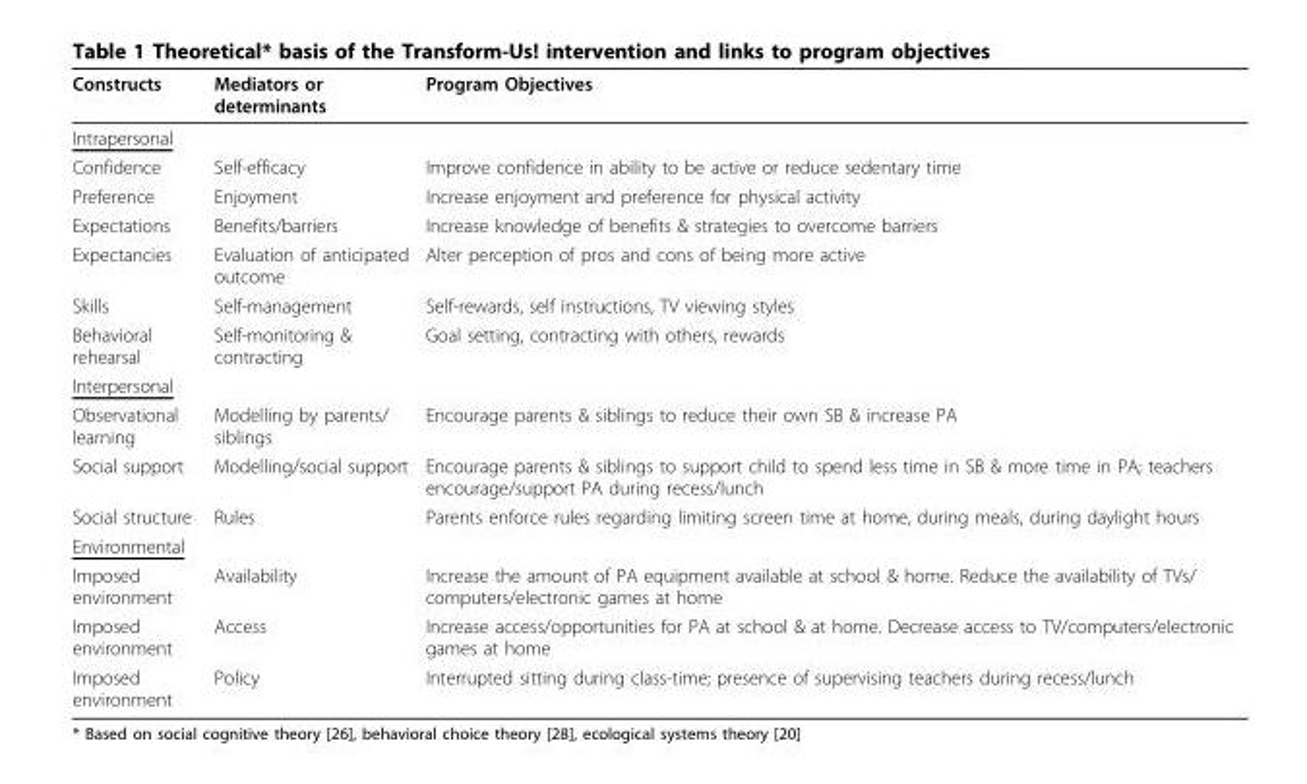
<table><thead><tr><td>Constructs</td><td>Mediators or determinants</td><td>Program Objectives</td></tr></thead><tbody><tr><td colspan="3">Intrapersonal</td></tr><tr><td>Confidence</td><td>Self-efficacy</td><td>Improve confidence in ability to be active or reduce sedentary time</td></tr><tr><td>Preference</td><td>Enjoyment</td><td>Increase enjoyment and preference for physical activity</td></tr><tr><td>Expectations</td><td>Benefits/barriers</td><td>Increase knowledge of benefits &amp; strategies to overcome barriers</td></tr><tr><td>Expectancies</td><td>Evaluation of anticipated outcome</td><td>Alter perception of pros and cons of being more active</td></tr><tr><td>Skills</td><td>Self-management</td><td>Self-rewards, self instructions, TV viewing styles</td></tr><tr><td>Behavioral rehearsal</td><td>Self-monitoring &amp; contracting</td><td>Goal setting, contracting with others, rewards</td></tr><tr><td colspan="3">Interpersonal</td></tr><tr><td>Observational learning</td><td>Modelling by parents/ siblings</td><td>Encourage parents &amp; siblings to reduce their own SB &amp; increase PA</td></tr><tr><td>Social support</td><td>Modelling/social support</td><td>Encourage parents &amp; siblings to support child to spend less time in SB &amp; more time in PA; teachers encourage/support PA during recess/lunch</td></tr><tr><td>Social structure</td><td>Rules</td><td>Parents enforce rules regarding limiting screen time at home, during meals, during daylight hours</td></tr><tr><td colspan="3">Environmental</td></tr><tr><td>Imposed environment</td><td>Availability</td><td>Increase the amount of PA equipment available at school &amp; home. Reduce the availability of TVs/ computers/electronic games at home</td></tr><tr><td>Imposed environment</td><td>Access</td><td>Increase access/opportunities for PA at school &amp; at home. Decrease access to TV/computers/electronic games at home</td></tr><tr><td>Imposed environment</td><td>Policy</td><td>Interrupted sitting during class-time; presence of supervising teachers during recess/lunch</td></tr></tbody></table>